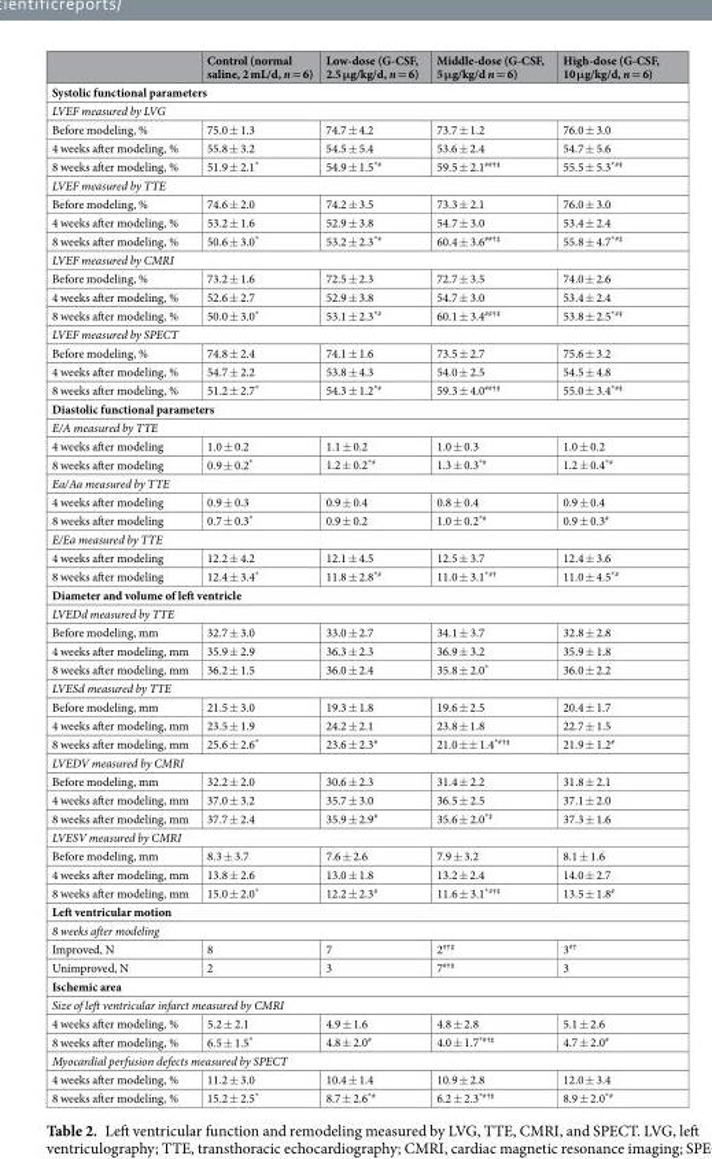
<table><thead><tr><td></td><td>Control (normal saline, 2 mL/d, n = 6)</td><td>Low-dose (G-CSF, 2.5 μg/kg/d, n = 6)</td><td>Middle-dose (G-CSF, 5 μg/kg/d n = 6)</td><td>High-dose (G-CSF, 10 μg/kg/d, n = 6)</td></tr></thead><tbody><tr><td colspan="5">Systolic functional parameters</td></tr><tr><td colspan="5">LVEF measured by LVG</td></tr><tr><td>Before modeling, %</td><td>75.0 ± 1.3</td><td>74.7 ± 4.2</td><td>73.7 ± 1.2</td><td>76.0 ± 3.0</td></tr><tr><td>4 weeks after modeling, %</td><td>55.8 ± 3.2</td><td>54.5 ± 5.4</td><td>53.6 ± 2.4</td><td>54.7 ± 5.6</td></tr><tr><td>8 weeks after modeling, %</td><td>51.9 ± 2.1*</td><td>54.9 ± 1.5<sup>*#</sup></td><td>59.5 ± 2.1<sup>##†‡</sup></td><td>55.5 ± 5.3<sup>*#‡</sup></td></tr><tr><td colspan="5">LVEF measured by TTE</td></tr><tr><td>Before modeling, %</td><td>74.6 ± 2.0</td><td>74.2 ± 3.5</td><td>73.3 ± 2.1</td><td>76.0 ± 3.0</td></tr><tr><td>4 weeks after modeling, %</td><td>53.2 ± 1.6</td><td>52.9 ± 3.8</td><td>54.7 ± 3.0</td><td>53.4 ± 2.4</td></tr><tr><td>8 weeks after modeling, %</td><td>50.6 ± 3.0*</td><td>53.2 ± 2.3<sup>*#</sup></td><td>60.4 ± 3.6<sup>##†‡</sup></td><td>55.8 ± 4.7<sup>*#‡</sup></td></tr><tr><td colspan="5">LVEF measured by CMRI</td></tr><tr><td>Before modeling, %</td><td>73.2 ± 1.6</td><td>72.5 ± 2.3</td><td>72.7 ± 3.5</td><td>74.0 ± 2.6</td></tr><tr><td>4 weeks after modeling, %</td><td>52.6 ± 2.7</td><td>52.9 ± 3.8</td><td>54.7 ± 3.0</td><td>53.4 ± 2.4</td></tr><tr><td>8 weeks after modeling, %</td><td>50.0 ± 3.0*</td><td>53.1 ± 2.3<sup>*#</sup></td><td>60.1 ± 3.4<sup>##†‡</sup></td><td>53.8 ± 2.5<sup>*#‡</sup></td></tr><tr><td colspan="5">LVEF measured by SPECT</td></tr><tr><td>Before modeling, %</td><td>74.8 ± 2.4</td><td>74.1 ± 1.6</td><td>73.5 ± 2.7</td><td>75.6 ± 3.2</td></tr><tr><td>4 weeks after modeling, %</td><td>54.7 ± 2.2</td><td>53.8 ± 4.3</td><td>54.0 ± 2.5</td><td>54.5 ± 4.8</td></tr><tr><td>8 weeks after modeling, %</td><td>51.2 ± 2.7*</td><td>54.3 ± 1.2<sup>*#</sup></td><td>59.3 ± 4.0<sup>##†‡</sup></td><td>55.0 ± 3.4<sup>*#‡</sup></td></tr><tr><td colspan="5">Diastolic functional parameters</td></tr><tr><td colspan="5">E/A measured by TTE</td></tr><tr><td>4 weeks after modeling</td><td>1.0 ± 0.2</td><td>1.1 ± 0.2</td><td>1.0 ± 0.3</td><td>1.0 ± 0.2</td></tr><tr><td>8 weeks after modeling</td><td>0.9 ± 0.2*</td><td>1.2 ± 0.2<sup>*#</sup></td><td>1.3 ± 0.3<sup>*#</sup></td><td>1.2 ± 0.4<sup>*#</sup></td></tr><tr><td colspan="5">Ea/Aa measured by TTE</td></tr><tr><td>4 weeks after modeling</td><td>0.9 ± 0.3</td><td>0.9 ± 0.4</td><td>0.8 ± 0.4</td><td>0.9 ± 0.4</td></tr><tr><td>8 weeks after modeling</td><td>0.7 ± 0.3*</td><td>0.9 ± 0.2</td><td>1.0 ± 0.2<sup>*#</sup></td><td>0.9 ± 0.3<sup>#</sup></td></tr><tr><td colspan="5">E/Ea measured by TTE</td></tr><tr><td>4 weeks after modeling</td><td>12.2 ± 4.2</td><td>12.1 ± 4.5</td><td>12.5 ± 3.7</td><td>12.4 ± 3.6</td></tr><tr><td>8 weeks after modeling</td><td>12.4 ± 3.4*</td><td>11.8 ± 2.8<sup>*#</sup></td><td>11.0 ± 3.1<sup>*#†</sup></td><td>11.0 ± 4.5<sup>*#</sup></td></tr><tr><td colspan="5">Diameter and volume of left ventricle</td></tr><tr><td colspan="5">LVEDd measured by TTE</td></tr><tr><td>Before modeling, mm</td><td>32.7 ± 3.0</td><td>33.0 ± 2.7</td><td>34.1 ± 3.7</td><td>32.8 ± 2.8</td></tr><tr><td>4 weeks after modeling, mm</td><td>35.9 ± 2.9</td><td>36.3 ± 2.3</td><td>36.9 ± 3.2</td><td>35.9 ± 1.8</td></tr><tr><td>8 weeks after modeling, mm</td><td>36.2 ± 1.5</td><td>36.0 ± 2.4</td><td>35.8 ± 2.0*</td><td>36.0 ± 2.2</td></tr><tr><td colspan="5">LVESd measured by TTE</td></tr><tr><td>Before modeling, mm</td><td>21.5 ± 3.0</td><td>19.3 ± 1.8</td><td>19.6 ± 2.5</td><td>20.4 ± 1.7</td></tr><tr><td>4 weeks after modeling, mm</td><td>23.5 ± 1.9</td><td>24.2 ± 2.1</td><td>23.8 ± 1.8</td><td>22.7 ± 1.5</td></tr><tr><td>8 weeks after modeling, mm</td><td>25.6 ± 2.6*</td><td>23.6 ± 2.3<sup>#</sup></td><td>21.0 ±± 1.4<sup>*#†‡</sup></td><td>21.9 ± 1.2<sup>#</sup></td></tr><tr><td colspan="5">LVEDV measured by CMRI</td></tr><tr><td>Before modeling, mm</td><td>32.2 ± 2.0</td><td>30.6 ± 2.3</td><td>31.4 ± 2.2</td><td>31.8 ± 2.1</td></tr><tr><td>4 weeks after modeling, mm</td><td>37.0 ± 3.2</td><td>35.7 ± 3.0</td><td>36.5 ± 2.5</td><td>37.1 ± 2.0</td></tr><tr><td>8 weeks after modeling, mm</td><td>37.7 ± 2.4</td><td>35.9 ± 2.9<sup>#</sup></td><td>35.6 ± 2.0<sup>*‡</sup></td><td>37.3 ± 1.6</td></tr><tr><td colspan="5">LVESV measured by CMRI</td></tr><tr><td>Before modeling, mm</td><td>8.3 ± 3.7</td><td>7.6 ± 2.6</td><td>7.9 ± 3.2</td><td>8.1 ± 1.6</td></tr><tr><td>4 weeks after modeling, mm</td><td>13.8 ± 2.6</td><td>13.0 ± 1.8</td><td>13.2 ± 2.4</td><td>14.0 ± 2.7</td></tr><tr><td>8 weeks after modeling, mm</td><td>15.0 ± 2.0*</td><td>12.2 ± 2.3<sup>#</sup></td><td>11.6 ± 3.1<sup>*#†‡</sup></td><td>13.5 ± 1.8<sup>#</sup></td></tr><tr><td colspan="5">Left ventricular motion</td></tr><tr><td colspan="5">8 weeks after modeling</td></tr><tr><td>Improved, N</td><td>8</td><td>7</td><td>2<sup>#†‡</sup></td><td>3<sup>#†</sup></td></tr><tr><td>Unimproved, N</td><td>2</td><td>3</td><td>7<sup>#†‡</sup></td><td>3</td></tr><tr><td colspan="5">Ischemic area</td></tr><tr><td colspan="5">Size of left ventricular infarct measured by CMRI</td></tr><tr><td>4 weeks after modeling, %</td><td>5.2 ± 2.1</td><td>4.9 ± 1.6</td><td>4.8 ± 2.8</td><td>5.1 ± 2.6</td></tr><tr><td>8 weeks after modeling, %</td><td>6.5 ± 1.5*</td><td>4.8 ± 2.0<sup>#</sup></td><td>4.0 ± 1.7<sup>*#†‡</sup></td><td>4.7 ± 2.0<sup>#</sup></td></tr><tr><td colspan="5">Myocardial perfusion defects measured by SPECT</td></tr><tr><td>4 weeks after modeling, %</td><td>11.2 ± 3.0</td><td>10.4 ± 1.4</td><td>10.9 ± 2.8</td><td>12.0 ± 3.4</td></tr><tr><td>8 weeks after modeling, %</td><td>15.2 ± 2.5*</td><td>8.7 ± 2.6<sup>*#</sup></td><td>6.2 ± 2.3<sup>*#†‡</sup></td><td>8.9 ± 2.0<sup>*#</sup></td></tr></tbody></table>